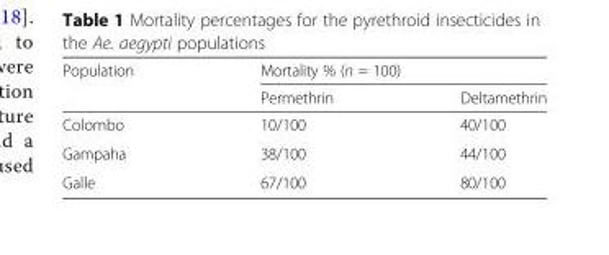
<table><thead><tr><td rowspan="2">Population</td><td colspan="2">Mortality % (n = 100)</td></tr><tr><td>Permethrin</td><td>Deltamethrin</td></tr></thead><tbody><tr><td>Colombo</td><td>10/100</td><td>40/100</td></tr><tr><td>Gampaha</td><td>38/100</td><td>44/100</td></tr><tr><td>Galle</td><td>67/100</td><td>80/100</td></tr></tbody></table>